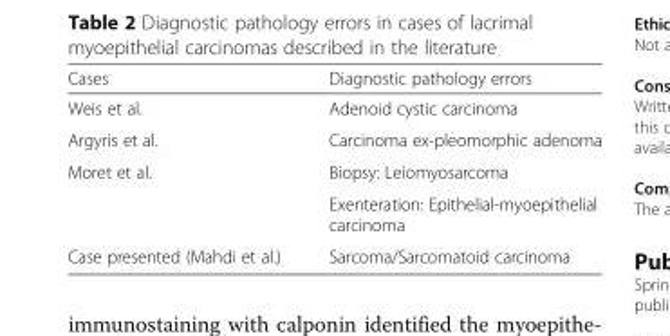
<table><thead><tr><td>Cases</td><td>Diagnostic pathology errors</td></tr></thead><tbody><tr><td>Weis et al.</td><td>Adenoid cystic carcinoma</td></tr><tr><td>Argyris et al.</td><td>Carcinoma ex-pleomorphic adenoma</td></tr><tr><td rowspan="2">Moret et al.</td><td>Biopsy: Leiomyosarcoma</td></tr><tr><td>Exenteration: Epithelial-myoepithelial carcinoma</td></tr><tr><td>Case presented (Mahdi et al.)</td><td>Sarcoma/Sarcomatoid carcinoma</td></tr></tbody></table>